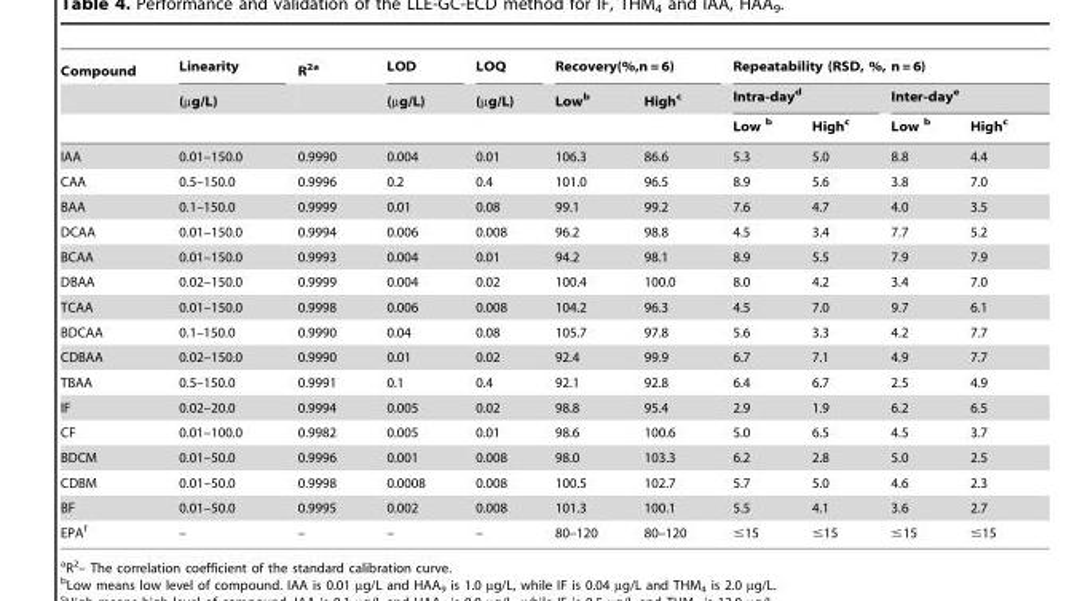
<table><thead><tr><td rowspan="3">Compound</td><td rowspan="3">Linearity (µg/L)</td><td rowspan="3">R<sup>2a</sup></td><td rowspan="3">LOD (µg/L)</td><td rowspan="3">LOQ (µg/L)</td><td colspan="2">Recovery(%,n = 6)</td><td colspan="4">Repeatability (RSD, %, n = 6)</td></tr><tr><td rowspan="2">Lowb</td><td rowspan="2">High<sup>c</sup></td><td colspan="2">Intra-day<sup>d</sup></td><td colspan="2">Inter-day<sup>e</sup></td></tr><tr><td>Low b</td><td>High<sup>c</sup></td><td>Low b</td><td>High<sup>c</sup></td></tr></thead><tbody><tr><td>IAA</td><td>0.01–150.0</td><td>0.9990</td><td>0.004</td><td>0.01</td><td>106.3</td><td>86.6</td><td>5.3</td><td>5.0</td><td>8.8</td><td>4.4</td></tr><tr><td>CAA</td><td>0.5–150.0</td><td>0.9996</td><td>0.2</td><td>0.4</td><td>101.0</td><td>96.5</td><td>8.9</td><td>5.6</td><td>3.8</td><td>7.0</td></tr><tr><td>BAA</td><td>0.1–150.0</td><td>0.9999</td><td>0.01</td><td>0.08</td><td>99.1</td><td>99.2</td><td>7.6</td><td>4.7</td><td>4.0</td><td>3.5</td></tr><tr><td>DCAA</td><td>0.01–150.0</td><td>0.9994</td><td>0.006</td><td>0.008</td><td>96.2</td><td>98.8</td><td>4.5</td><td>3.4</td><td>7.7</td><td>5.2</td></tr><tr><td>BCAA</td><td>0.01–150.0</td><td>0.9993</td><td>0.004</td><td>0.01</td><td>94.2</td><td>98.1</td><td>8.9</td><td>5.5</td><td>7.9</td><td>7.9</td></tr><tr><td>DBAA</td><td>0.02–150.0</td><td>0.9999</td><td>0.004</td><td>0.02</td><td>100.4</td><td>100.0</td><td>8.0</td><td>4.2</td><td>3.4</td><td>7.0</td></tr><tr><td>TCAA</td><td>0.01–150.0</td><td>0.9998</td><td>0.006</td><td>0.008</td><td>104.2</td><td>96.3</td><td>4.5</td><td>7.0</td><td>9.7</td><td>6.1</td></tr><tr><td>BDCAA</td><td>0.1–150.0</td><td>0.9990</td><td>0.04</td><td>0.08</td><td>105.7</td><td>97.8</td><td>5.6</td><td>3.3</td><td>4.2</td><td>7.7</td></tr><tr><td>CDBAA</td><td>0.02–150.0</td><td>0.9990</td><td>0.01</td><td>0.02</td><td>92.4</td><td>99.9</td><td>6.7</td><td>7.1</td><td>4.9</td><td>7.7</td></tr><tr><td>TBAA</td><td>0.5–150.0</td><td>0.9991</td><td>0.1</td><td>0.4</td><td>92.1</td><td>92.8</td><td>6.4</td><td>6.7</td><td>2.5</td><td>4.9</td></tr><tr><td>IF</td><td>0.02–20.0</td><td>0.9994</td><td>0.005</td><td>0.02</td><td>98.8</td><td>95.4</td><td>2.9</td><td>1.9</td><td>6.2</td><td>6.5</td></tr><tr><td>CF</td><td>0.01–100.0</td><td>0.9982</td><td>0.005</td><td>0.01</td><td>98.6</td><td>100.6</td><td>5.0</td><td>6.5</td><td>4.5</td><td>3.7</td></tr><tr><td>BDCM</td><td>0.01–50.0</td><td>0.9996</td><td>0.001</td><td>0.008</td><td>98.0</td><td>103.3</td><td>6.2</td><td>2.8</td><td>5.0</td><td>2.5</td></tr><tr><td>CDBM</td><td>0.01–50.0</td><td>0.9998</td><td>0.0008</td><td>0.008</td><td>100.5</td><td>102.7</td><td>5.7</td><td>5.0</td><td>4.6</td><td>2.3</td></tr><tr><td>BF</td><td>0.01–50.0</td><td>0.9995</td><td>0.002</td><td>0.008</td><td>101.3</td><td>100.1</td><td>5.5</td><td>4.1</td><td>3.6</td><td>2.7</td></tr><tr><td>EPA<sup>f</sup></td><td>–</td><td>–</td><td>–</td><td>–</td><td>80–120</td><td>80–120</td><td>≤15</td><td>≤15</td><td>≤15</td><td>≤15</td></tr></tbody></table>